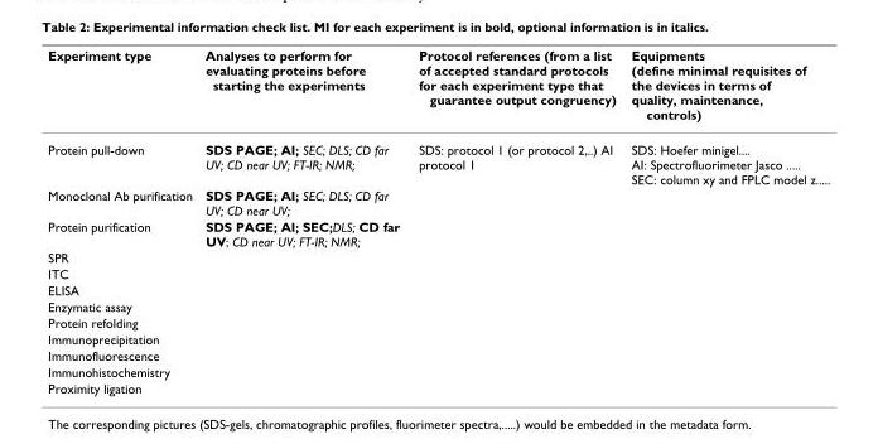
<table><thead><tr><td>Experiment type</td><td>Analyses to perform for evaluating proteins before starting the experiments</td><td>Protocol references (from a list of accepted standard protocols for each experiment type that guarantee output congruency)</td><td>Equipments (define minimal requisites of the devices in terms of quality, maintenance, controls)</td></tr></thead><tbody><tr><td>Protein pull-down</td><td>SDS PAGE; AI; SEC; DLS; CD far UV; CD near UV; FT-IR; NMR;</td><td>SDS: protocol 1 (or protocol 2,..) AI protocol 1</td><td>SDS: Hoefer minigel.... AI: Spectrofluorimeter Jasco ..... SEC: column xy and FPLC model z.....</td></tr><tr><td>Monoclonal Ab purification</td><td>SDS PAGE; AI; SEC; DLS; CD far UV; CD near UV;</td><td></td><td></td></tr><tr><td>Protein purification</td><td>SDS PAGE; AI; SEC;DLS; CD far UV; CD near UV; FT-IR; NMR;</td><td></td><td></td></tr><tr><td colspan="4">SPR</td></tr><tr><td colspan="4">ITC</td></tr><tr><td colspan="4">ELISA</td></tr><tr><td colspan="4">Enzymatic assay</td></tr><tr><td colspan="4">Protein refolding</td></tr><tr><td colspan="4">Immunoprecipitation</td></tr><tr><td colspan="4">Immunofluorescence</td></tr><tr><td colspan="4">Immunohistochemistry</td></tr><tr><td>Proximity ligation</td><td></td><td></td><td></td></tr></tbody></table>